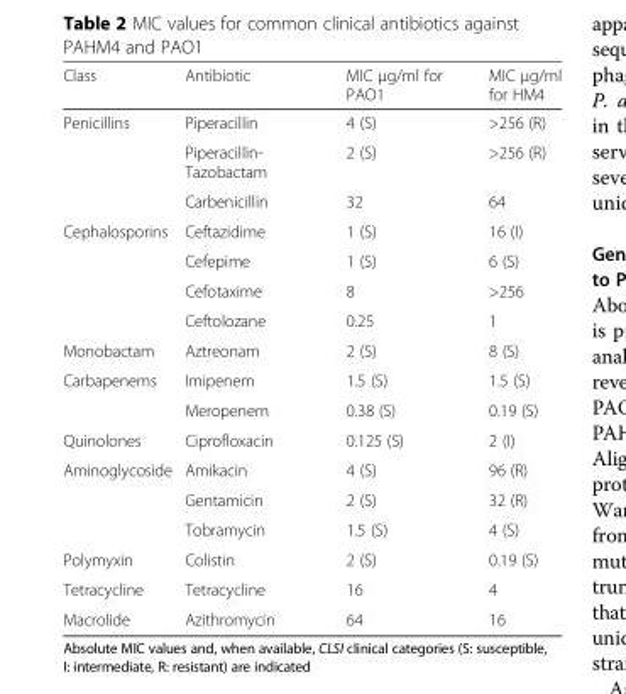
<table><thead><tr><td>Class</td><td>Antibiotic</td><td>MIC μg/ml for PAO1</td><td>MIC μg/ml for HM4</td></tr></thead><tbody><tr><td rowspan="3">Penicillins</td><td>Piperacillin</td><td>4 (S)</td><td>&gt;256 (R)</td></tr><tr><td>Piperacillin- Tazobactam</td><td>2 (S)</td><td>&gt;256 (R)</td></tr><tr><td>Carbenicillin</td><td>32</td><td>64</td></tr><tr><td rowspan="4">Cephalosporins</td><td>Ceftazidime</td><td>1 (S)</td><td>16 (I)</td></tr><tr><td>Cefepime</td><td>1 (S)</td><td>6 (S)</td></tr><tr><td>Cefotaxime</td><td>8</td><td>&gt;256</td></tr><tr><td>Ceftolozane</td><td>0.25</td><td>1</td></tr><tr><td>Monobactam</td><td>Aztreonam</td><td>2 (S)</td><td>8 (S)</td></tr><tr><td rowspan="2">Carbapenems</td><td>Imipenem</td><td>1.5 (S)</td><td>1.5 (S)</td></tr><tr><td>Meropenem</td><td>0.38 (S)</td><td>0.19 (S)</td></tr><tr><td>Quinolones</td><td>Ciprofloxacin</td><td>0.125 (S)</td><td>2 (I)</td></tr><tr><td rowspan="3">Aminoglycoside</td><td>Amikacin</td><td>4 (S)</td><td>96 (R)</td></tr><tr><td>Gentamicin</td><td>2 (S)</td><td>32 (R)</td></tr><tr><td>Tobramycin</td><td>1.5 (S)</td><td>4 (S)</td></tr><tr><td>Polymyxin</td><td>Colistin</td><td>2 (S)</td><td>0.19 (S)</td></tr><tr><td>Tetracycline</td><td>Tetracycline</td><td>16</td><td>4</td></tr><tr><td>Macrolide</td><td>Azithromycin</td><td>64</td><td>16</td></tr></tbody></table>